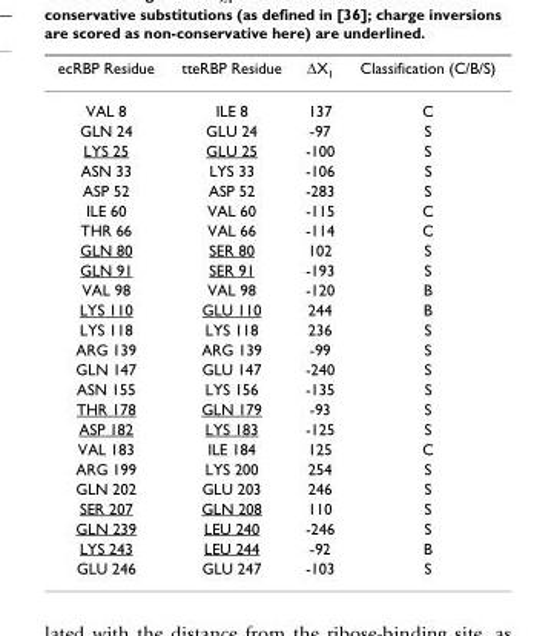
<table><thead><tr><td>ecRBP Residue</td><td>tteRBP Residue</td><td>∆X1</td><td>Classification (C/B/S)</td></tr></thead><tbody><tr><td>VAL 8</td><td>ILE 8</td><td>137</td><td>C</td></tr><tr><td>GLN 24</td><td>GLU 24</td><td>-97</td><td>S</td></tr><tr><td>LYS 25</td><td>GLU 25</td><td>-100</td><td>S</td></tr><tr><td>ASN 33</td><td>LYS 33</td><td>-106</td><td>S</td></tr><tr><td>ASP 52</td><td>ASP 52</td><td>-283</td><td>S</td></tr><tr><td>ILE 60</td><td>VAL 60</td><td>-115</td><td>C</td></tr><tr><td>THR 66</td><td>VAL 66</td><td>-114</td><td>C</td></tr><tr><td>GLN 80</td><td>SER 80</td><td>102</td><td>S</td></tr><tr><td>GLN 91</td><td>SER 91</td><td>-193</td><td>S</td></tr><tr><td>VAL 98</td><td>VAL 98</td><td>-120</td><td>B</td></tr><tr><td>LYS 110</td><td>GLU 110</td><td>244</td><td>B</td></tr><tr><td>LYS 118</td><td>LYS 118</td><td>236</td><td>S</td></tr><tr><td>ARG 139</td><td>ARG 139</td><td>-99</td><td>S</td></tr><tr><td>GLN 147</td><td>GLU 147</td><td>-240</td><td>S</td></tr><tr><td>ASN 155</td><td>LYS 156</td><td>-135</td><td>S</td></tr><tr><td>THR 178</td><td>GLN 179</td><td>-93</td><td>S</td></tr><tr><td>ASP 182</td><td>LYS 183</td><td>-125</td><td>S</td></tr><tr><td>VAL 183</td><td>ILE 184</td><td>125</td><td>C</td></tr><tr><td>ARG 199</td><td>LYS 200</td><td>254</td><td>S</td></tr><tr><td>GLN 202</td><td>GLU 203</td><td>246</td><td>S</td></tr><tr><td>SER 207</td><td>GLN 208</td><td>110</td><td>S</td></tr><tr><td>GLN 239</td><td>LEU 240</td><td>-246</td><td>S</td></tr><tr><td>LYS 243</td><td>LEU 244</td><td>-92</td><td>B</td></tr><tr><td>GLU 246</td><td>GLU 247</td><td>-103</td><td>S</td></tr></tbody></table>